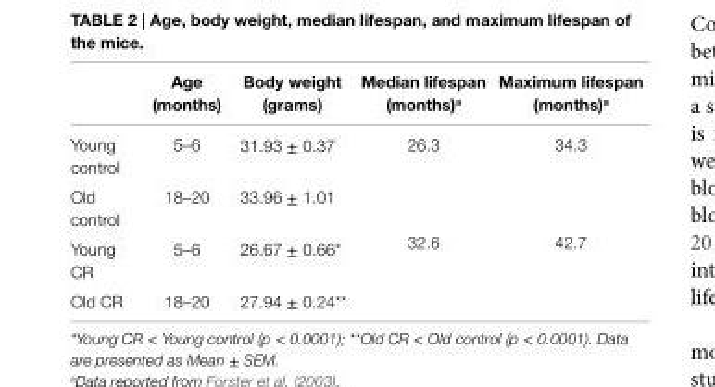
<table><thead><tr><td></td><td>age (months)</td><td>Body weight (grams)</td><td>Median lifespan (months)<sup>a</sup></td><td>Maximum lifespan (months)<sup>a</sup></td></tr></thead><tbody><tr><td>Young control</td><td>5–6</td><td>31.93 ± 0.37</td><td rowspan="2">26.3</td><td rowspan="2">34.3</td></tr><tr><td>Old control</td><td>18–20</td><td>33.96 ± 1.01</td></tr><tr><td>Young CR</td><td>5–6</td><td>26.67 ± 0.66*</td><td rowspan="2">32.6</td><td rowspan="2">42.7</td></tr><tr><td>Old CR</td><td>18–20</td><td>27.94 ± 0.24**</td></tr></tbody></table>